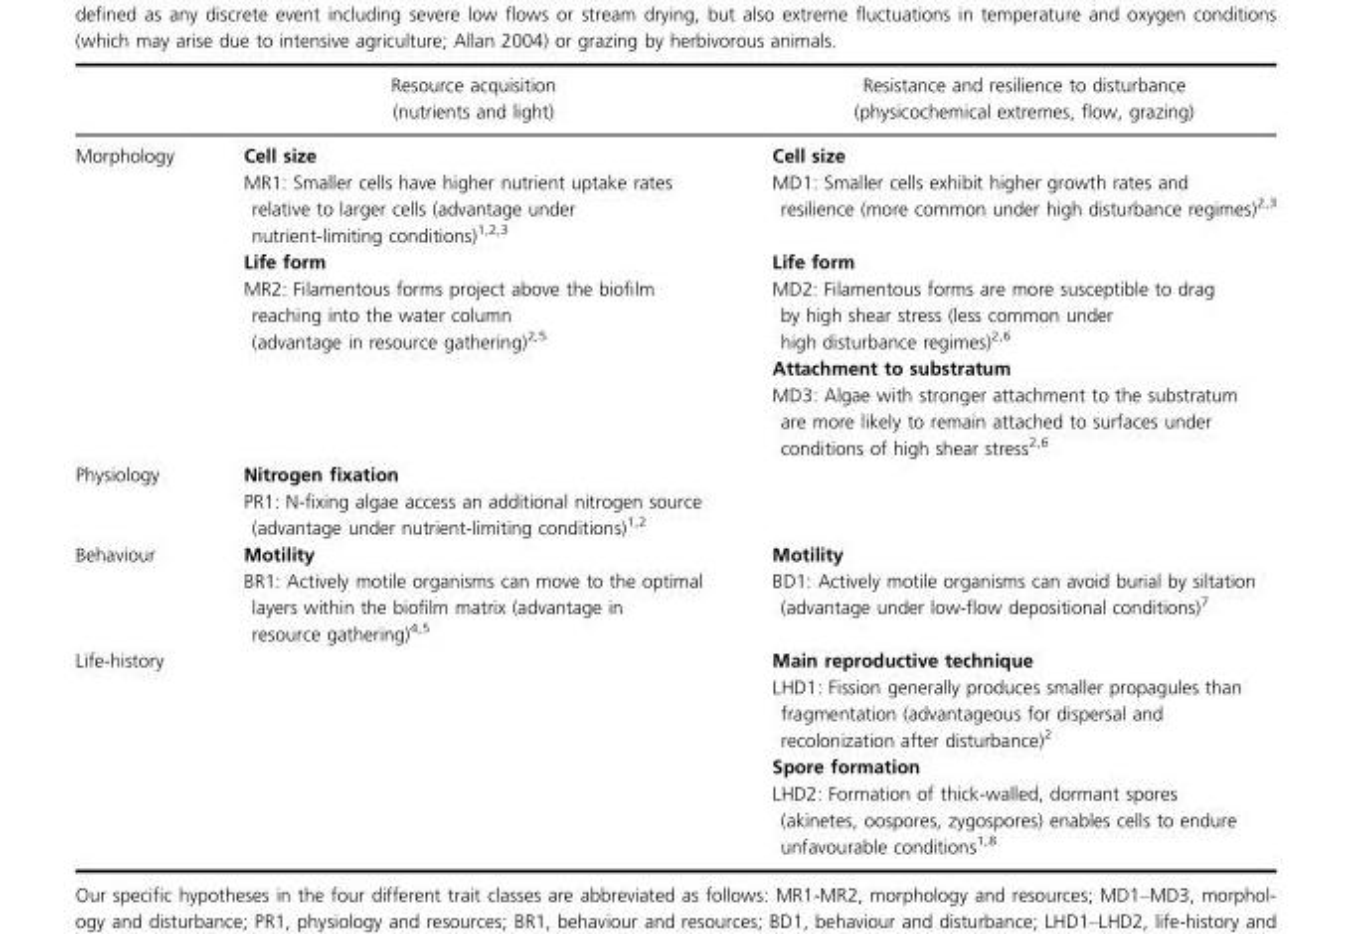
<table><thead><tr><td></td><td>Resource acquisition (nutrients and light)</td><td>Resistance and resilience to disturbance (physicochemical extremes, flow, grazing)</td></tr></thead><tbody><tr><td rowspan="6">Morphology</td><td>Cell size</td><td>Cell size</td></tr><tr><td>MR1: Smaller cells have higher nutrient uptake rates relative to larger cells (advantage under nutrient-limiting conditions)<sup>1,2,3</sup></td><td>MD1: Smaller cells exhibit higher growth rates and resilience (more common under high disturbance regimes)<sup>2,3</sup></td></tr><tr><td>Life form</td><td>Life form</td></tr><tr><td>MR2: Filamentous forms project above the biofilm reaching into the water column (advantage in resource gathering)<sup>2,5</sup></td><td>MD2: Filamentous forms are more susceptible to drag by high shear stress (less common under high disturbance regimes)<sup>2,6</sup></td></tr><tr><td></td><td>Attachment to substratum</td></tr><tr><td></td><td>MD3: Algae with stronger attachment to the substratum are more likely to remain attached to surfaces under conditions of high shear stress<sup>2,6</sup></td></tr><tr><td rowspan="2">Physiology</td><td colspan="2">Nitrogen fixation</td></tr><tr><td>PR1: N-fixing algae access an additional nitrogen source (advantage under nutrient-limiting conditions)<sup>1,2</sup></td><td></td></tr><tr><td rowspan="2">Behaviour</td><td>Motility</td><td>Motility</td></tr><tr><td>BR1: Actively motile organisms can move to the optimal layers within the biofilm matrix (advantage in resource gathering)<sup>4,5</sup></td><td>BD1: Actively motile organisms can avoid burial by siltation (advantage under low-flow depositional conditions)<sup>7</sup></td></tr><tr><td rowspan="4">Life-history</td><td></td><td>Main reproductive technique</td></tr><tr><td></td><td>LHD1: Fission generally produces smaller propagules than fragmentation (advantageous for dispersal and recolonization after disturbance)<sup>2</sup></td></tr><tr><td></td><td>Spore formation</td></tr><tr><td></td><td>LHD2: Formation of thick-walled, dormant spores (akinetes, oospores, zygospores) enables cells to endure unfavourable conditions<sup>1,8</sup></td></tr></tbody></table>